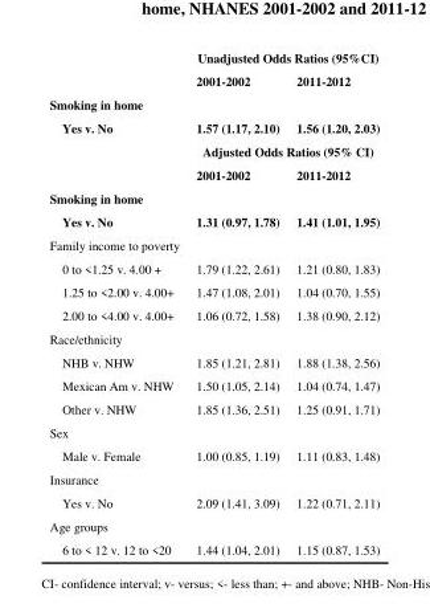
<table><thead><tr><td rowspan="2"></td><td colspan="2">Unadjusted Odds Ratios (95%CI)</td></tr><tr><td>2001-2002</td><td>2011-2012</td></tr></thead><tbody><tr><td colspan="3">Smoking in home</td></tr><tr><td rowspan="3">Yes v. No</td><td>1.57 (1.17, 2.10)</td><td>1.56 (1.20, 2.03)</td></tr><tr><td colspan="2">Adjusted Odds Ratios (95% CI)</td></tr><tr><td>2001-2002</td><td>2011-2012</td></tr><tr><td colspan="3">Smoking in home</td></tr><tr><td>Yes v. No</td><td>1.31 (0.97, 1.78)</td><td>1.41 (1.01, 1.95)</td></tr><tr><td colspan="3">Family income to poverty</td></tr><tr><td>0 to &lt;1.25 v. 4.00 +</td><td>1.79 (1.22, 2.61)</td><td>1.21 (0.80, 1.83)</td></tr><tr><td>1.25 to &lt;2.00 v. 4.00+</td><td>1.47 (1.08, 2.01)</td><td>1.04 (0.70, 1.55)</td></tr><tr><td>2.00 to &lt;4.00 v. 4.00+</td><td>1.06 (0.72, 1.58)</td><td>1.38 (0.90, 2.12)</td></tr><tr><td colspan="3">Race/ethnicity</td></tr><tr><td>NHB v. NHW</td><td>1.85 (1.21, 2.81)</td><td>1.88 (1.38, 2.56)</td></tr><tr><td>Mexican Am v. NHW</td><td>1.50 (1.05, 2.14)</td><td>1.04 (0.74, 1.47)</td></tr><tr><td>Other v. NHW</td><td>1.85 (1.36, 2.51)</td><td>1.25 (0.91, 1.71)</td></tr><tr><td colspan="3">Sex</td></tr><tr><td>Male v. Female</td><td>1.00 (0.85, 1.19)</td><td>1.11 (0.83, 1.48)</td></tr><tr><td colspan="3">Insurance</td></tr><tr><td>Yes v. No</td><td>2.09 (1.41, 3.09)</td><td>1.22 (0.71, 2.11)</td></tr><tr><td colspan="3">Age groups</td></tr><tr><td>6 to &lt; 12 v. 12 to &lt;20</td><td>1.44 (1.04, 2.01)</td><td>1.15 (0.87, 1.53)</td></tr></tbody></table>